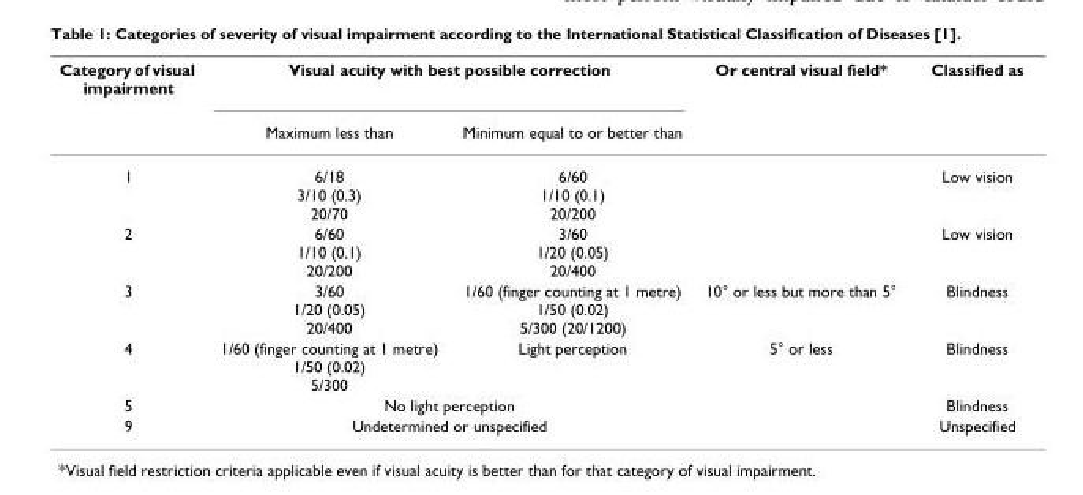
<table><thead><tr><td rowspan="2">Category of visual impairment</td><td colspan="2">Visual acuity with best possible correction</td><td rowspan="2">Or central visual field*</td><td rowspan="2">Classified as</td></tr><tr><td>Maximum less than</td><td>Minimum equal to or better than</td></tr></thead><tbody><tr><td>1</td><td>6/18 3/10 (0.3) 20/70</td><td>6/60 1/10 (0.1) 20/200</td><td></td><td>Low vision</td></tr><tr><td>2</td><td>6/60 1/10 (0.1) 20/200</td><td>3/60 1/20 (0.05) 20/400</td><td></td><td>Low vision</td></tr><tr><td>3</td><td>3/60 1/20 (0.05) 20/400</td><td>1/60 (finger counting at 1 metre) 1/50 (0.02) 5/300 (20/1200)</td><td>10° or less but more than 5°</td><td>Blindness</td></tr><tr><td>4</td><td>1/60 (finger counting at 1 metre) 1/50 (0.02) 5/300</td><td>Light perception</td><td>5° or less</td><td>Blindness</td></tr><tr><td>5</td><td colspan="2">No light perception</td><td></td><td>Blindness</td></tr><tr><td>9</td><td colspan="2">Undetermined or unspecified</td><td></td><td>Unspecified</td></tr></tbody></table>